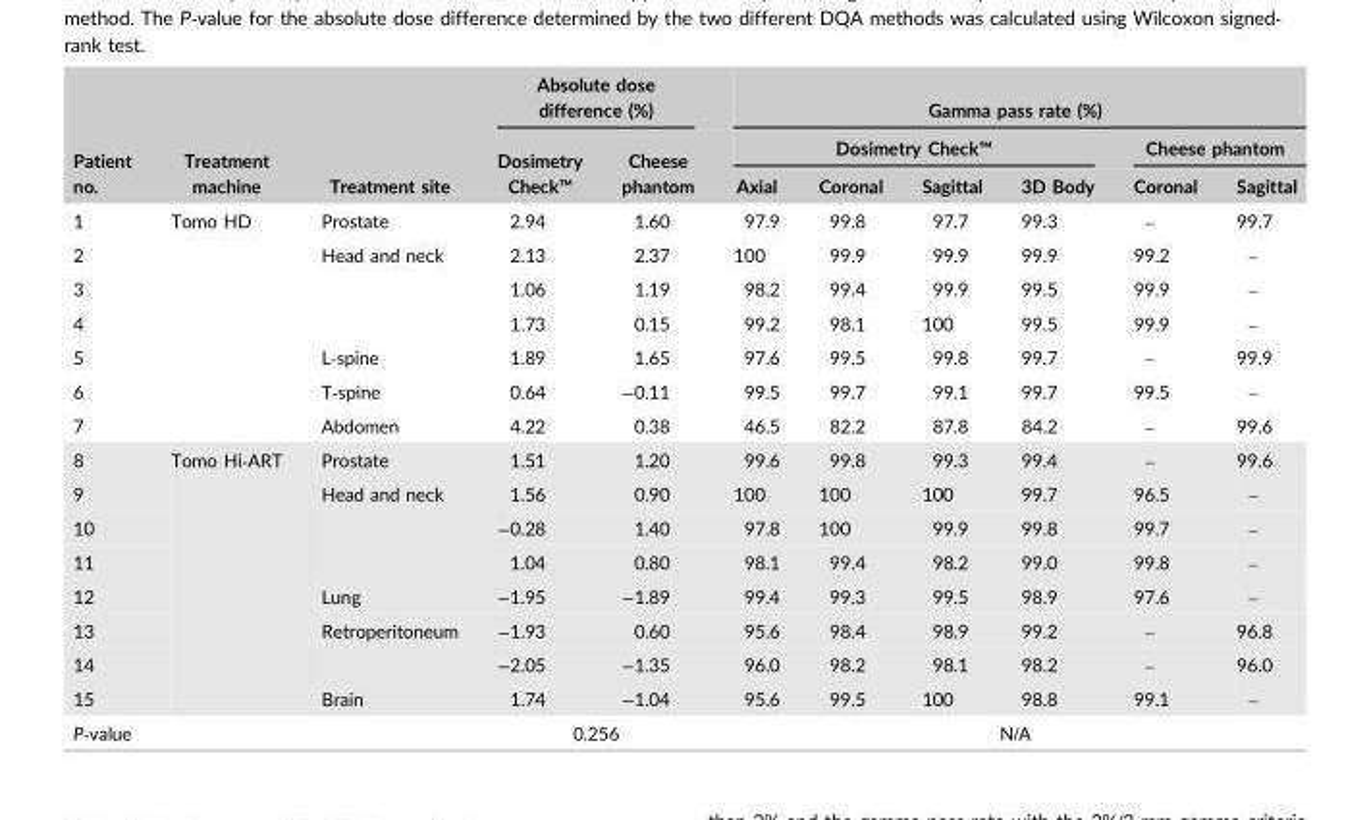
<table><thead><tr><td rowspan="3">Patient no.</td><td rowspan="3">Treatment machine</td><td rowspan="3">Treatment site</td><td colspan="2">Absolute dose difference (%)</td><td colspan="6">Gamma pass rate (%)</td></tr><tr><td rowspan="2">Dosimetry Check™</td><td rowspan="2">Cheese phantom</td><td colspan="4">Dosimetry Check™</td><td colspan="2">Cheese phantom</td></tr><tr><td>Axial</td><td>Coronal</td><td>Sagittal</td><td>3D Body</td><td>Coronal</td><td>Sagittal</td></tr></thead><tbody><tr><td>1</td><td rowspan="7">Tomo HD</td><td>Prostate</td><td>2.94</td><td>1.60</td><td>97.9</td><td>99.8</td><td>97.7</td><td>99.3</td><td>–</td><td>99.7</td></tr><tr><td>2</td><td rowspan="3">Head and neck</td><td>2.13</td><td>2.37</td><td>100</td><td>99.9</td><td>99.9</td><td>99.9</td><td>99.2</td><td>–</td></tr><tr><td>3</td><td>1.06</td><td>1.19</td><td>98.2</td><td>99.4</td><td>99.9</td><td>99.5</td><td>99.9</td><td>–</td></tr><tr><td>4</td><td>1.73</td><td>0.15</td><td>99.2</td><td>98.1</td><td>100</td><td>99.5</td><td>99.9</td><td>–</td></tr><tr><td>5</td><td>L‐spine</td><td>1.89</td><td>1.65</td><td>97.6</td><td>99.5</td><td>99.8</td><td>99.7</td><td>–</td><td>99.9</td></tr><tr><td>6</td><td>T‐spine</td><td>0.64</td><td>−0.11</td><td>99.5</td><td>99.7</td><td>99.1</td><td>99.7</td><td>99.5</td><td>–</td></tr><tr><td>7</td><td>Abdomen</td><td>4.22</td><td>0.38</td><td>46.5</td><td>82.2</td><td>87.8</td><td>84.2</td><td>–</td><td>99.6</td></tr><tr><td>8</td><td rowspan="8">Tomo Hi‐ART</td><td>Prostate</td><td>1.51</td><td>1.20</td><td>99.6</td><td>99.8</td><td>99.3</td><td>99.4</td><td>–</td><td>99.6</td></tr><tr><td>9</td><td rowspan="3">Head and neck</td><td>1.56</td><td>0.90</td><td>100</td><td>100</td><td>100</td><td>99.7</td><td>96.5</td><td>–</td></tr><tr><td>10</td><td>−0.28</td><td>1.40</td><td>97.8</td><td>100</td><td>99.9</td><td>99.8</td><td>99.7</td><td>–</td></tr><tr><td>11</td><td>1.04</td><td>0.80</td><td>98.1</td><td>99.4</td><td>98.2</td><td>99.0</td><td>99.8</td><td>–</td></tr><tr><td>12</td><td>Lung</td><td>−1.95</td><td>−1.89</td><td>99.4</td><td>99.3</td><td>99.5</td><td>98.9</td><td>97.6</td><td>–</td></tr><tr><td>13</td><td rowspan="2">Retroperitoneum</td><td>−1.93</td><td>0.60</td><td>95.6</td><td>98.4</td><td>98.9</td><td>99.2</td><td>–</td><td>96.8</td></tr><tr><td>14</td><td>−2.05</td><td>−1.35</td><td>96.0</td><td>98.2</td><td>98.1</td><td>98.2</td><td>–</td><td>96.0</td></tr><tr><td>15</td><td>Brain</td><td>1.74</td><td>−1.04</td><td>95.6</td><td>99.5</td><td>100</td><td>98.8</td><td>99.1</td><td>–</td></tr><tr><td colspan="3">P‐value</td><td colspan="2">0.256</td><td colspan="6">N/A</td></tr></tbody></table>